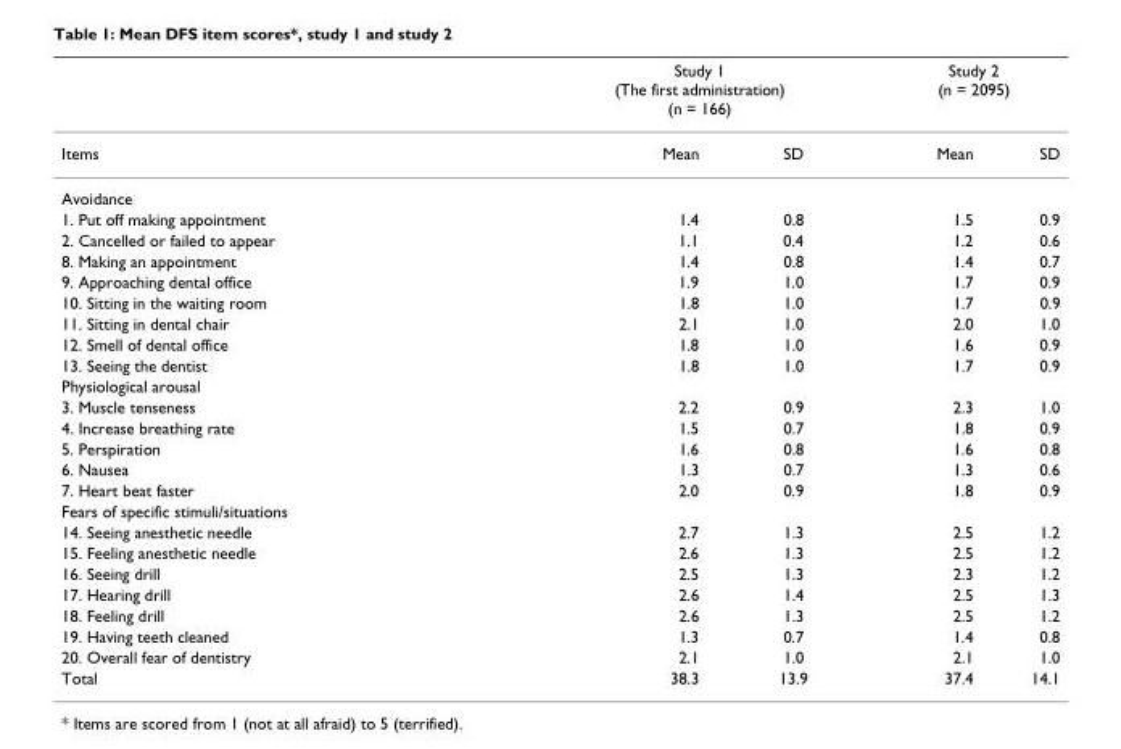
<table><thead><tr><td rowspan="2">Items</td><td colspan="2">Study 1 (The first administration) (n = 166)</td><td colspan="2">Study 2 (n = 2095)</td></tr><tr><td>Mean</td><td>SD</td><td>Mean</td><td>SD</td></tr></thead><tbody><tr><td colspan="5">Avoidance</td></tr><tr><td>1. Put off making appointment</td><td>1.4</td><td>0.8</td><td>1.5</td><td>0.9</td></tr><tr><td>2. Cancelled or failed to appear</td><td>1.1</td><td>0.4</td><td>1.2</td><td>0.6</td></tr><tr><td>8. Making an appointment</td><td>1.4</td><td>0.8</td><td>1.4</td><td>0.7</td></tr><tr><td>9. Approaching dental office</td><td>1.9</td><td>1.0</td><td>1.7</td><td>0.9</td></tr><tr><td>10. Sitting in the waiting room</td><td>1.8</td><td>1.0</td><td>1.7</td><td>0.9</td></tr><tr><td>11. Sitting in dental chair</td><td>2.1</td><td>1.0</td><td>2.0</td><td>1.0</td></tr><tr><td>12. Smell of dental office</td><td>1.8</td><td>1.0</td><td>1.6</td><td>0.9</td></tr><tr><td>13. Seeing the dentist</td><td>1.8</td><td>1.0</td><td>1.7</td><td>0.9</td></tr><tr><td colspan="5">Physiological arousal</td></tr><tr><td>3. Muscle tenseness</td><td>2.2</td><td>0.9</td><td>2.3</td><td>1.0</td></tr><tr><td>4. Increase breathing rate</td><td>1.5</td><td>0.7</td><td>1.8</td><td>0.9</td></tr><tr><td>5. Perspiration</td><td>1.6</td><td>0.8</td><td>1.6</td><td>0.8</td></tr><tr><td>6. Nausea</td><td>1.3</td><td>0.7</td><td>1.3</td><td>0.6</td></tr><tr><td>7. Heart beat faster</td><td>2.0</td><td>0.9</td><td>1.8</td><td>0.9</td></tr><tr><td colspan="5">Fears of specific stimuli/situations</td></tr><tr><td>14. Seeing anesthetic needle</td><td>2.7</td><td>1.3</td><td>2.5</td><td>1.2</td></tr><tr><td>15. Feeling anesthetic needle</td><td>2.6</td><td>1.3</td><td>2.5</td><td>1.2</td></tr><tr><td>16. Seeing drill</td><td>2.5</td><td>1.3</td><td>2.3</td><td>1.2</td></tr><tr><td>17. Hearing drill</td><td>2.6</td><td>1.4</td><td>2.5</td><td>1.3</td></tr><tr><td>18. Feeling drill</td><td>2.6</td><td>1.3</td><td>2.5</td><td>1.2</td></tr><tr><td>19. Having teeth cleaned</td><td>1.3</td><td>0.7</td><td>1.4</td><td>0.8</td></tr><tr><td>20. Overall fear of dentistry</td><td>2.1</td><td>1.0</td><td>2.1</td><td>1.0</td></tr><tr><td>Total</td><td>38.3</td><td>13.9</td><td>37.4</td><td>14.1</td></tr></tbody></table>